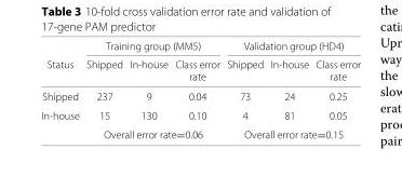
<table><thead><tr><td rowspan="3">Status</td><td colspan="3">Training group (MM5)</td><td colspan="3">Validation group (HD4)</td></tr><tr><td rowspan="2">Shipped</td><td rowspan="2">In-house</td><td rowspan="2">Class error rate</td><td rowspan="2">Shipped</td><td rowspan="2">In-house</td><td rowspan="2">Class error rate</td></tr><tr></tr></thead><tbody><tr><td>Shipped</td><td>237</td><td>9</td><td>0.04</td><td>73</td><td>24</td><td>0.25</td></tr><tr><td rowspan="2">In-house</td><td>15</td><td>130</td><td>0.10</td><td>4</td><td>81</td><td>0.05</td></tr><tr><td colspan="3">Overall error rate=0.06</td><td colspan="3">Overall error rate=0.15</td></tr></tbody></table>